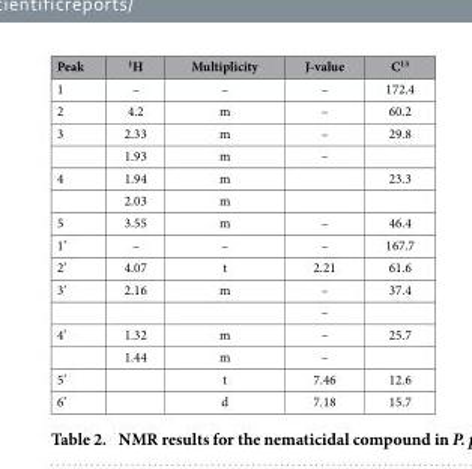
<table><thead><tr><td>Peak</td><td><sup>1</sup>H</td><td>Multiplicity</td><td>J-value</td><td>C<sup>13</sup></td></tr></thead><tbody><tr><td>1</td><td>–</td><td>–</td><td>–</td><td>172.4</td></tr><tr><td>2</td><td>4.2</td><td>m</td><td>–</td><td>60.2</td></tr><tr><td rowspan="2">3</td><td>2.33</td><td>m</td><td>–</td><td>29.8</td></tr><tr><td>1.93</td><td>m</td><td>–</td><td></td></tr><tr><td rowspan="2">4</td><td>1.94</td><td>m</td><td></td><td>23.3</td></tr><tr><td>2.03</td><td>m</td><td></td><td></td></tr><tr><td>5</td><td>3.55</td><td>m</td><td>–</td><td>46.4</td></tr><tr><td>1’</td><td>–</td><td>–</td><td>–</td><td>167.7</td></tr><tr><td>2’</td><td>4.07</td><td>t</td><td>2.21</td><td>61.6</td></tr><tr><td rowspan="2">3’</td><td>2.16</td><td>m</td><td>–</td><td>37.4</td></tr><tr><td></td><td></td><td>–</td><td></td></tr><tr><td rowspan="2">4’</td><td>1.32</td><td>m</td><td>–</td><td>25.7</td></tr><tr><td>1.44</td><td>m</td><td>–</td><td></td></tr><tr><td>5’</td><td></td><td>t</td><td>7.46</td><td>12.6</td></tr><tr><td>6’</td><td></td><td>d</td><td>7.18</td><td>15.7</td></tr></tbody></table>